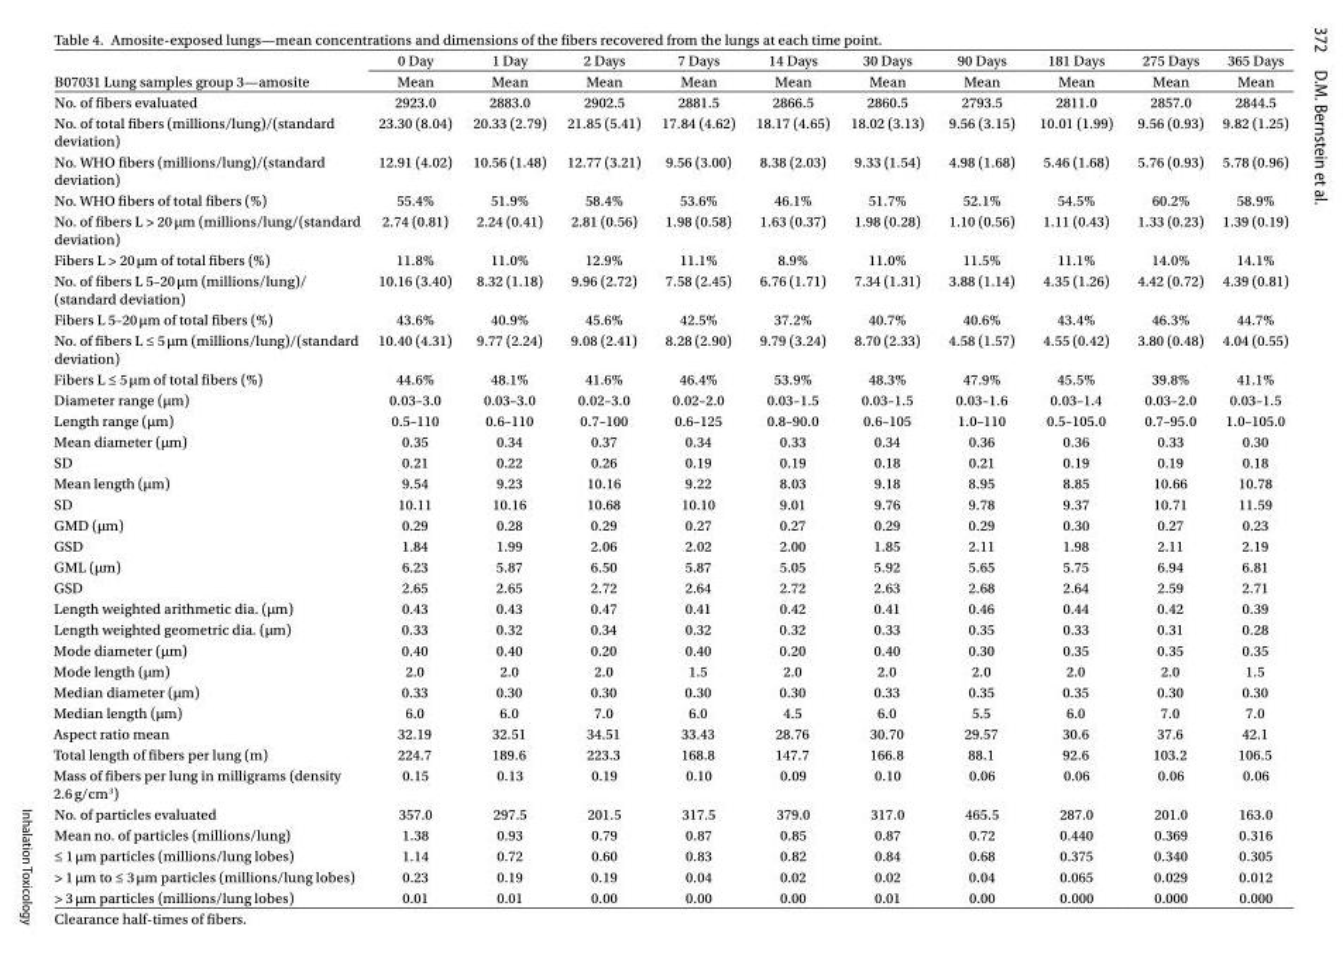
<table><thead><tr><td rowspan="2">B07031 Lung samples group 3—amosite</td><td rowspan="2">0 Day Mean</td><td rowspan="2">1 Day Mean</td><td rowspan="2">2 Days Mean</td><td rowspan="2">7 Days Mean</td><td rowspan="2">14 Days Mean</td><td rowspan="2">30 Days Mean</td><td rowspan="2">90 Days Mean</td><td rowspan="2">181 Days Mean</td><td rowspan="2">275 Days Mean</td><td rowspan="2">365 Days Mean</td></tr><tr></tr></thead><tbody><tr><td>No. of fibers evaluated</td><td>2923.0</td><td>2883.0</td><td>2902.5</td><td>2881.5</td><td>2866.5</td><td>2860.5</td><td>2793.5</td><td>2811.0</td><td>2857.0</td><td>2844.5</td></tr><tr><td>No. of total fibers (millions/lung)/(standard deviation)</td><td>23.30 (8.04)</td><td>20.33 (2.79)</td><td>21.85 (5.41)</td><td>17.84 (4.62)</td><td>18.17 (4.65)</td><td>18.02 (3.13)</td><td>9.56 (3.15)</td><td>10.01 (1.99)</td><td>9.56 (0.93)</td><td>9.82 (1.25)</td></tr><tr><td>No. WHO fibers (millions/lung)/(standard deviation)</td><td>12.91 (4.02)</td><td>10.56 (1.48)</td><td>12.77 (3.21)</td><td>9.56 (3.00)</td><td>8.38 (2.03)</td><td>9.33 (1.54)</td><td>4.98 (1.68)</td><td>5.46 (1.68)</td><td>5.76 (0.93)</td><td>5.78 (0.96)</td></tr><tr><td>No. WHO fibers of total fibers (%)</td><td>55.4%</td><td>51.9%</td><td>58.4%</td><td>53.6%</td><td>46.1%</td><td>51.7%</td><td>52.1%</td><td>54.5%</td><td>60.2%</td><td>58.9%</td></tr><tr><td>No. of fibers L &gt; 20 µm (millions/lung/(standard deviation)</td><td>2.74 (0.81)</td><td>2.24 (0.41)</td><td>2.81 (0.56)</td><td>1.98 (0.58)</td><td>1.63 (0.37)</td><td>1.98 (0.28)</td><td>1.10 (0.56)</td><td>1.11 (0.43)</td><td>1.33 (0.23)</td><td>1.39 (0.19)</td></tr><tr><td>Fibers L &gt; 20 µm of total fibers (%)</td><td>11.8%</td><td>11.0%</td><td>12.9%</td><td>11.1%</td><td>8.9%</td><td>11.0%</td><td>11.5%</td><td>11.1%</td><td>14.0%</td><td>14.1%</td></tr><tr><td>No. of fibers L 5–20 µm (millions/lung)/ (standard deviation)</td><td>10.16 (3.40)</td><td>8.32 (1.18)</td><td>9.96 (2.72)</td><td>7.58 (2.45)</td><td>6.76 (1.71)</td><td>7.34 (1.31)</td><td>3.88 (1.14)</td><td>4.35 (1.26)</td><td>4.42 (0.72)</td><td>4.39 (0.81)</td></tr><tr><td>Fibers L 5–20 µm of total fibers (%)</td><td>43.6%</td><td>40.9%</td><td>45.6%</td><td>42.5%</td><td>37.2%</td><td>40.7%</td><td>40.6%</td><td>43.4%</td><td>46.3%</td><td>44.7%</td></tr><tr><td>No. of fibers L ≤ 5 µm (millions/lung)/(standard deviation)</td><td>10.40 (4.31)</td><td>9.77 (2.24)</td><td>9.08 (2.41)</td><td>8.28 (2.90)</td><td>9.79 (3.24)</td><td>8.70 (2.33)</td><td>4.58 (1.57)</td><td>4.55 (0.42)</td><td>3.80 (0.48)</td><td>4.04 (0.55)</td></tr><tr><td>Fibers L ≤ 5 µm of total fibers (%)</td><td>44.6%</td><td>48.1%</td><td>41.6%</td><td>46.4%</td><td>53.9%</td><td>48.3%</td><td>47.9%</td><td>45.5%</td><td>39.8%</td><td>41.1%</td></tr><tr><td>Diameter range (µm)</td><td>0.03–3.0</td><td>0.03–3.0</td><td>0.02–3.0</td><td>0.02–2.0</td><td>0.03–1.5</td><td>0.03–1.5</td><td>0.03–1.6</td><td>0.03–1.4</td><td>0.03–2.0</td><td>0.03–1.5</td></tr><tr><td>Length range (µm)</td><td>0.5–110</td><td>0.6–110</td><td>0.7–100</td><td>0.6–125</td><td>0.8–90.0</td><td>0.6–105</td><td>1.0–110</td><td>0.5–105.0</td><td>0.7–95.0</td><td>1.0–105.0</td></tr><tr><td>Mean diameter (µm)</td><td>0.35</td><td>0.34</td><td>0.37</td><td>0.34</td><td>0.33</td><td>0.34</td><td>0.36</td><td>0.36</td><td>0.33</td><td>0.30</td></tr><tr><td>SD</td><td>0.21</td><td>0.22</td><td>0.26</td><td>0.19</td><td>0.19</td><td>0.18</td><td>0.21</td><td>0.19</td><td>0.19</td><td>0.18</td></tr><tr><td>Mean length (µm)</td><td>9.54</td><td>9.23</td><td>10.16</td><td>9.22</td><td>8.03</td><td>9.18</td><td>8.95</td><td>8.85</td><td>10.66</td><td>10.78</td></tr><tr><td>SD</td><td>10.11</td><td>10.16</td><td>10.68</td><td>10.10</td><td>9.01</td><td>9.76</td><td>9.78</td><td>9.37</td><td>10.71</td><td>11.59</td></tr><tr><td>GMD (µm)</td><td>0.29</td><td>0.28</td><td>0.29</td><td>0.27</td><td>0.27</td><td>0.29</td><td>0.29</td><td>0.30</td><td>0.27</td><td>0.23</td></tr><tr><td>GSD</td><td>1.84</td><td>1.99</td><td>2.06</td><td>2.02</td><td>2.00</td><td>1.85</td><td>2.11</td><td>1.98</td><td>2.11</td><td>2.19</td></tr><tr><td>GML (µm)</td><td>6.23</td><td>5.87</td><td>6.50</td><td>5.87</td><td>5.05</td><td>5.92</td><td>5.65</td><td>5.75</td><td>6.94</td><td>6.81</td></tr><tr><td>GSD</td><td>2.65</td><td>2.65</td><td>2.72</td><td>2.64</td><td>2.72</td><td>2.63</td><td>2.68</td><td>2.64</td><td>2.59</td><td>2.71</td></tr><tr><td>Length weighted arithmetic dia. (µm)</td><td>0.43</td><td>0.43</td><td>0.47</td><td>0.41</td><td>0.42</td><td>0.41</td><td>0.46</td><td>0.44</td><td>0.42</td><td>0.39</td></tr><tr><td>Length weighted geometric dia. (µm)</td><td>0.33</td><td>0.32</td><td>0.34</td><td>0.32</td><td>0.32</td><td>0.33</td><td>0.35</td><td>0.33</td><td>0.31</td><td>0.28</td></tr><tr><td>Mode diameter (µm)</td><td>0.40</td><td>0.40</td><td>0.20</td><td>0.40</td><td>0.20</td><td>0.40</td><td>0.30</td><td>0.35</td><td>0.35</td><td>0.35</td></tr><tr><td>Mode length (µm)</td><td>2.0</td><td>2.0</td><td>2.0</td><td>1.5</td><td>2.0</td><td>2.0</td><td>2.0</td><td>2.0</td><td>2.0</td><td>1.5</td></tr><tr><td>Median diameter (µm)</td><td>0.33</td><td>0.30</td><td>0.30</td><td>0.30</td><td>0.30</td><td>0.33</td><td>0.35</td><td>0.35</td><td>0.30</td><td>0.30</td></tr><tr><td>Median length (µm)</td><td>6.0</td><td>6.0</td><td>7.0</td><td>6.0</td><td>4.5</td><td>6.0</td><td>5.5</td><td>6.0</td><td>7.0</td><td>7.0</td></tr><tr><td>Aspect ratio mean</td><td>32.19</td><td>32.51</td><td>34.51</td><td>33.43</td><td>28.76</td><td>30.70</td><td>29.57</td><td>30.6</td><td>37.6</td><td>42.1</td></tr><tr><td>Total length of fibers per lung (m)</td><td>224.7</td><td>189.6</td><td>223.3</td><td>168.8</td><td>147.7</td><td>166.8</td><td>88.1</td><td>92.6</td><td>103.2</td><td>106.5</td></tr><tr><td>Mass of fibers per lung in milligrams (density 2.6 g/cm<sup>3</sup>)</td><td>0.15</td><td>0.13</td><td>0.19</td><td>0.10</td><td>0.09</td><td>0.10</td><td>0.06</td><td>0.06</td><td>0.06</td><td>0.06</td></tr><tr><td>No. of particles evaluated</td><td>357.0</td><td>297.5</td><td>201.5</td><td>317.5</td><td>379.0</td><td>317.0</td><td>465.5</td><td>287.0</td><td>201.0</td><td>163.0</td></tr><tr><td>Mean no. of particles (millions/lung)</td><td>1.38</td><td>0.93</td><td>0.79</td><td>0.87</td><td>0.85</td><td>0.87</td><td>0.72</td><td>0.440</td><td>0.369</td><td>0.316</td></tr><tr><td>≤ 1 µm particles (millions/lung lobes)</td><td>1.14</td><td>0.72</td><td>0.60</td><td>0.83</td><td>0.82</td><td>0.84</td><td>0.68</td><td>0.375</td><td>0.340</td><td>0.305</td></tr><tr><td>&gt; 1 µm to ≤ 3 µm particles (millions/lung lobes)</td><td>0.23</td><td>0.19</td><td>0.19</td><td>0.04</td><td>0.02</td><td>0.02</td><td>0.04</td><td>0.065</td><td>0.029</td><td>0.012</td></tr><tr><td>&gt; 3 µm particles (millions/lung lobes)</td><td>0.01</td><td>0.01</td><td>0.00</td><td>0.00</td><td>0.00</td><td>0.01</td><td>0.00</td><td>0.000</td><td>0.000</td><td>0.000</td></tr></tbody></table>